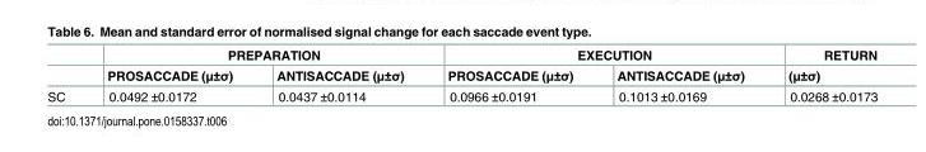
<table><thead><tr><td rowspan="2"></td><td colspan="2">PREPARATION</td><td colspan="2">EXECUTION</td><td rowspan="2">RETURN (μ±σ)</td></tr><tr><td>PROSACCADE (μ±σ)</td><td>ANTISACCADE (μ±σ)</td><td>PROSACCADE (μ±σ)</td><td>ANTISACCADE (μ±σ)</td></tr></thead><tbody><tr><td>SC</td><td>0.0492 ±0.0172</td><td>0.0437 ±0.0114</td><td>0.0966 ±0.0191</td><td>0.1013 ±0.0169</td><td>0.0268 ±0.0173</td></tr></tbody></table>